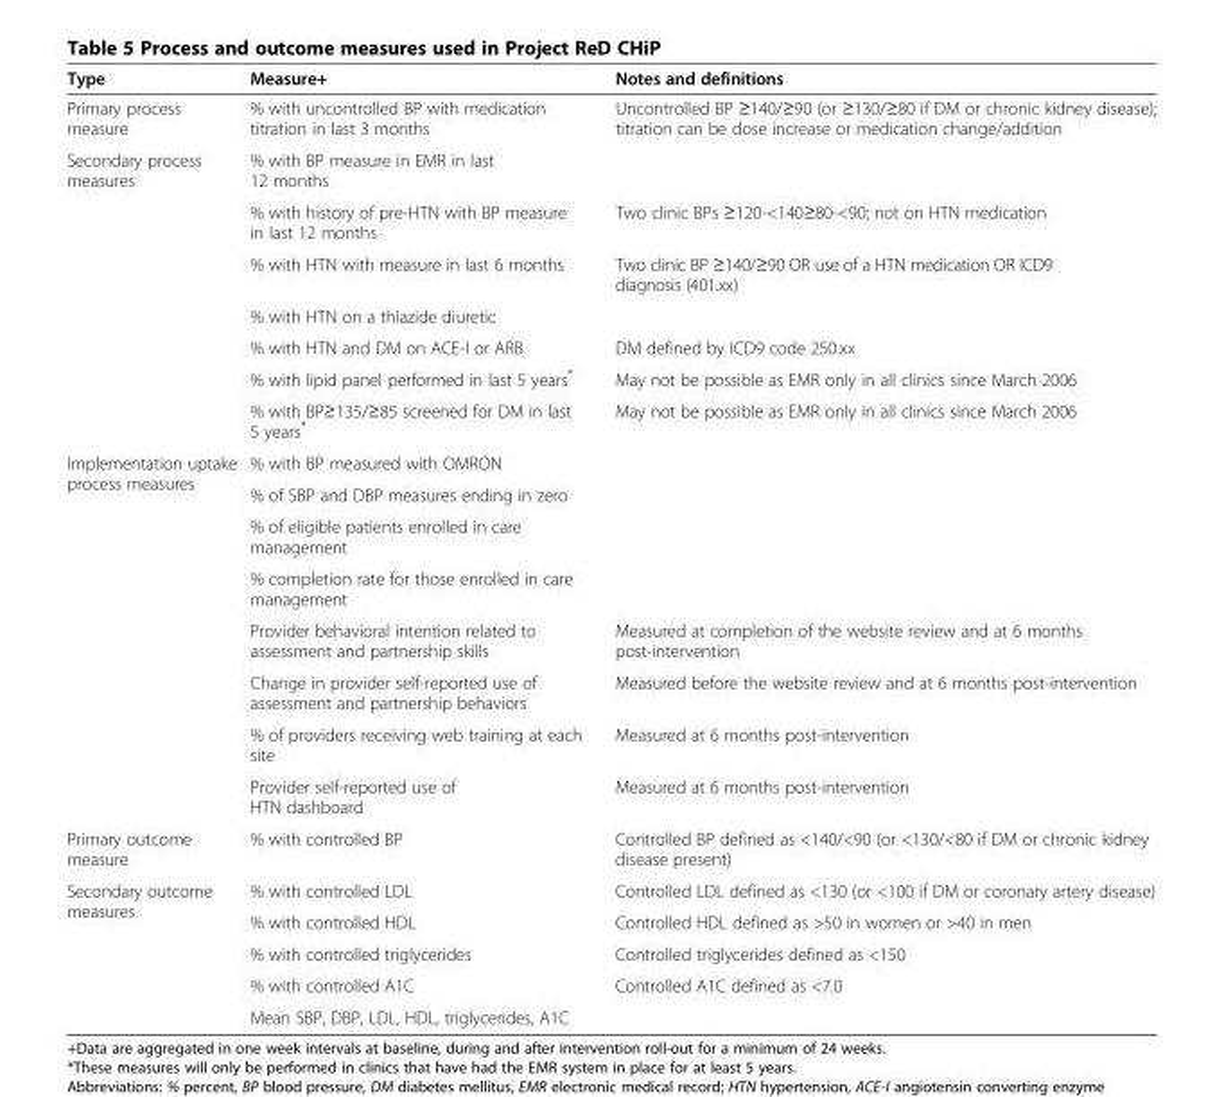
<table><thead><tr><td>Type</td><td>Measure+</td><td>Notes and definitions</td></tr></thead><tbody><tr><td>Primary process measure</td><td>% with uncontrolled BP with medication titration in last 3 months</td><td>Uncontrolled BP ≥140/≥90 (or ≥130/≥80 if DM or chronic kidney disease); titration can be dose increase or medication change/addition</td></tr><tr><td rowspan="7">Secondary process measures</td><td>% with BP measure in EMR in last 12 months</td><td></td></tr><tr><td>% with history of pre-HTN with BP measure in last 12 months</td><td>Two clinic BPs ≥120-&lt;140≥80-&lt;90; not on HTN medication</td></tr><tr><td>% with HTN with measure in last 6 months</td><td>Two clinic BP ≥140/≥90 OR use of a HTN medication OR ICD9 diagnosis (401.xx)</td></tr><tr><td>% with HTN on a thiazide diuretic</td><td></td></tr><tr><td>% with HTN and DM on ACE-I or ARB</td><td>DM defined by ICD9 code 250.xx</td></tr><tr><td>% with lipid panel performed in last 5 years*</td><td>May not be possible as EMR only in all clinics since March 2006</td></tr><tr><td>% with BP≥135/≥85 screened for DM in last 5 years*</td><td>May not be possible as EMR only in all clinics since March 2006</td></tr><tr><td rowspan="8">Implementation uptake process measures</td><td>% with BP measured with OMRON</td><td></td></tr><tr><td>% of SBP and DBP measures ending in zero</td><td></td></tr><tr><td>% of eligible patients enrolled in care management</td><td></td></tr><tr><td>% completion rate for those enrolled in care management</td><td></td></tr><tr><td>Provider behavioral intention related to assessment and partnership skills</td><td>Measured at completion of the website review and at 6 months post-intervention</td></tr><tr><td>Change in provider self-reported use of assessment and partnership behaviors</td><td>Measured before the website review and at 6 months post-intervention</td></tr><tr><td>% of providers receiving web training at each site</td><td>Measured at 6 months post-intervention</td></tr><tr><td>Provider self-reported use of HTN dashboard</td><td>Measured at 6 months post-intervention</td></tr><tr><td>Primary outcome measure</td><td>% with controlled BP</td><td>Controlled BP defined as &lt;140/&lt;90 (or &lt;130/&lt;80 if DM or chronic kidney disease present)</td></tr><tr><td rowspan="5">Secondary outcome measures</td><td>% with controlled LDL</td><td>Controlled LDL defined as &lt;130 (or &lt;100 if DM or coronary artery disease)</td></tr><tr><td>% with controlled HDL</td><td>Controlled HDL defined as &gt;50 in women or &gt;40 in men</td></tr><tr><td>% with controlled triglycerides</td><td>Controlled triglycerides defined as &lt;150</td></tr><tr><td>% with controlled A1C</td><td>Controlled A1C defined as &lt;7.0</td></tr><tr><td>Mean SBP, DBP, LDL, HDL, triglycerides, A1C</td><td></td></tr></tbody></table>